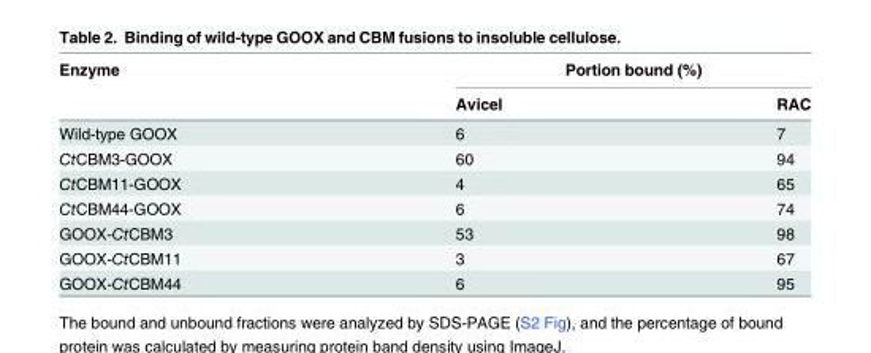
<table><thead><tr><td rowspan="2">Enzyme</td><td colspan="2">Portion bound (%)</td></tr><tr><td>Avicel</td><td>RAC</td></tr></thead><tbody><tr><td>Wild-type GOOX</td><td>6</td><td>7</td></tr><tr><td>CtCBM3-GOOX</td><td>60</td><td>94</td></tr><tr><td>CtCBM11-GOOX</td><td>4</td><td>65</td></tr><tr><td>CtCBM44-GOOX</td><td>6</td><td>74</td></tr><tr><td>GOOX-CtCBM3</td><td>53</td><td>98</td></tr><tr><td>GOOX-CtCBM11</td><td>3</td><td>67</td></tr><tr><td>GOOX-CtCBM44</td><td>6</td><td>95</td></tr></tbody></table>